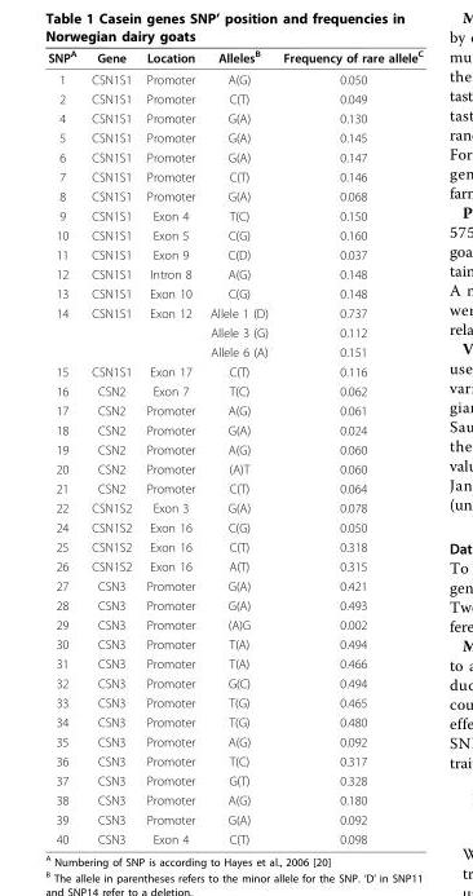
<table><thead><tr><td>SNP<sup>A</sup></td><td>Gene</td><td>Location</td><td>Alleles<sup>B</sup></td><td>Frequency of rare allele<sup>C</sup></td></tr></thead><tbody><tr><td>1</td><td>CSN1S1</td><td>Promoter</td><td>A(G)</td><td>0.050</td></tr><tr><td>2</td><td>CSN1S1</td><td>Promoter</td><td>C(T)</td><td>0.049</td></tr><tr><td>4</td><td>CSN1S1</td><td>Promoter</td><td>G(A)</td><td>0.130</td></tr><tr><td>5</td><td>CSN1S1</td><td>Promoter</td><td>G(A)</td><td>0.145</td></tr><tr><td>6</td><td>CSN1S1</td><td>Promoter</td><td>G(A)</td><td>0.147</td></tr><tr><td>7</td><td>CSN1S1</td><td>Promoter</td><td>C(T)</td><td>0.146</td></tr><tr><td>8</td><td>CSN1S1</td><td>Promoter</td><td>G(A)</td><td>0.068</td></tr><tr><td>9</td><td>CSN1S1</td><td>Exon 4</td><td>T(C)</td><td>0.150</td></tr><tr><td>10</td><td>CSN1S1</td><td>Exon 5</td><td>C(G)</td><td>0.160</td></tr><tr><td>11</td><td>CSN1S1</td><td>Exon 9</td><td>C(D)</td><td>0.037</td></tr><tr><td>12</td><td>CSN1S1</td><td>Intron 8</td><td>A(G)</td><td>0.148</td></tr><tr><td>13</td><td>CSN1S1</td><td>Exon 10</td><td>C(G)</td><td>0.148</td></tr><tr><td rowspan="3">14</td><td>CSN1S1</td><td>Exon 12</td><td>Allele 1 (D)</td><td>0.737</td></tr><tr><td></td><td></td><td>Allele 3 (G)</td><td>0.112</td></tr><tr><td></td><td></td><td>Allele 6 (A)</td><td>0.151</td></tr><tr><td>15</td><td>CSN1S1</td><td>Exon 17</td><td>C(T)</td><td>0.116</td></tr><tr><td>16</td><td>CSN2</td><td>Exon 7</td><td>T(C)</td><td>0.062</td></tr><tr><td>17</td><td>CSN2</td><td>Promoter</td><td>A(G)</td><td>0.061</td></tr><tr><td>18</td><td>CSN2</td><td>Promoter</td><td>G(A)</td><td>0.024</td></tr><tr><td>19</td><td>CSN2</td><td>Promoter</td><td>A(G)</td><td>0.060</td></tr><tr><td>20</td><td>CSN2</td><td>Promoter</td><td>(A)T</td><td>0.060</td></tr><tr><td>21</td><td>CSN2</td><td>Promoter</td><td>C(T)</td><td>0.064</td></tr><tr><td>22</td><td>CSN1S2</td><td>Exon 3</td><td>G(A)</td><td>0.078</td></tr><tr><td>24</td><td>CSN1S2</td><td>Exon 16</td><td>C(G)</td><td>0.050</td></tr><tr><td>25</td><td>CSN1S2</td><td>Exon 16</td><td>C(T)</td><td>0.318</td></tr><tr><td>26</td><td>CSN1S2</td><td>Exon 16</td><td>A(T)</td><td>0.315</td></tr><tr><td>27</td><td>CSN3</td><td>Promoter</td><td>G(A)</td><td>0.421</td></tr><tr><td>28</td><td>CSN3</td><td>Promoter</td><td>G(A)</td><td>0.493</td></tr><tr><td>29</td><td>CSN3</td><td>Promoter</td><td>(A)G</td><td>0.002</td></tr><tr><td>30</td><td>CSN3</td><td>Promoter</td><td>T(A)</td><td>0.494</td></tr><tr><td>31</td><td>CSN3</td><td>Promoter</td><td>T(A)</td><td>0.466</td></tr><tr><td>32</td><td>CSN3</td><td>Promoter</td><td>G(C)</td><td>0.494</td></tr><tr><td>33</td><td>CSN3</td><td>Promoter</td><td>T(G)</td><td>0.465</td></tr><tr><td>34</td><td>CSN3</td><td>Promoter</td><td>T(G)</td><td>0.480</td></tr><tr><td>35</td><td>CSN3</td><td>Promoter</td><td>A(G)</td><td>0.092</td></tr><tr><td>36</td><td>CSN3</td><td>Promoter</td><td>T(C)</td><td>0.317</td></tr><tr><td>37</td><td>CSN3</td><td>Promoter</td><td>G(T)</td><td>0.328</td></tr><tr><td>38</td><td>CSN3</td><td>Promoter</td><td>A(G)</td><td>0.180</td></tr><tr><td>39</td><td>CSN3</td><td>Promoter</td><td>G(A)</td><td>0.092</td></tr><tr><td>40</td><td>CSN3</td><td>Exon 4</td><td>C(T)</td><td>0.098</td></tr></tbody></table>